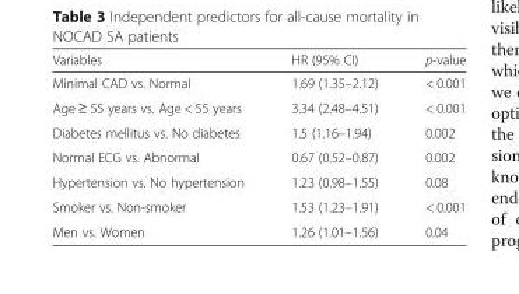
<table><thead><tr><td>Variables</td><td>HR (95% CI)</td><td>p-value</td></tr></thead><tbody><tr><td>Minimal CAD vs. Normal</td><td>1.69 (1.35–2.12)</td><td>&lt; 0.001</td></tr><tr><td>Age ≥ 55 years vs. Age &lt; 55 years</td><td>3.34 (2.48–4.51)</td><td>&lt; 0.001</td></tr><tr><td>Diabetes mellitus vs. No diabetes</td><td>1.5 (1.16–1.94)</td><td>0.002</td></tr><tr><td>Normal ECG vs. Abnormal</td><td>0.67 (0.52–0.87)</td><td>0.002</td></tr><tr><td>Hypertension vs. No hypertension</td><td>1.23 (0.98–1.55)</td><td>0.08</td></tr><tr><td>Smoker vs. Non-smoker</td><td>1.53 (1.23–1.91)</td><td>&lt; 0.001</td></tr><tr><td>Men vs. Women</td><td>1.26 (1.01–1.56)</td><td>0.04</td></tr></tbody></table>